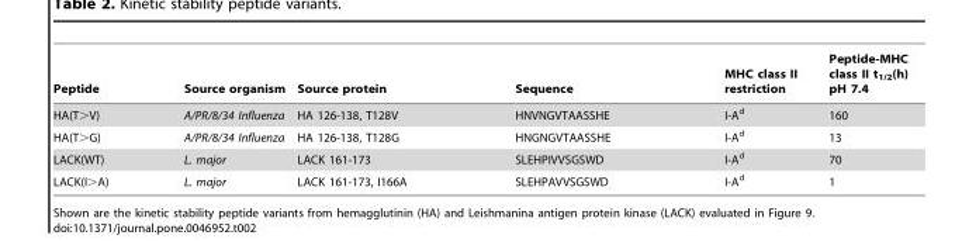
<table><thead><tr><td>Peptide</td><td>Source organism</td><td>Source protein</td><td>Sequence</td><td>MHC class II restriction</td><td>Peptide-MHC class II t<sub>1/2</sub>(h) pH 7.4</td></tr></thead><tbody><tr><td>HA(T&gt;V)</td><td>A/PR/8/34 Influenza</td><td>HA 126-138, T128V</td><td>HNVNGVTAASSHE</td><td>I-A<sup>d</sup></td><td>160</td></tr><tr><td>HA(T&gt;G)</td><td>A/PR/8/34 Influenza</td><td>HA 126-138, T128G</td><td>HNGNGVTAASSHE</td><td>I-A<sup>d</sup></td><td>13</td></tr><tr><td>LACK(WT)</td><td>L. major</td><td>LACK 161-173</td><td>SLEHPIVVSGSWD</td><td>I-A<sup>d</sup></td><td>70</td></tr><tr><td>LACK(I&gt;A)</td><td>L. major</td><td>LACK 161-173, I166A</td><td>SLEHPAVVSGSWD</td><td>I-A<sup>d</sup></td><td>1</td></tr></tbody></table>